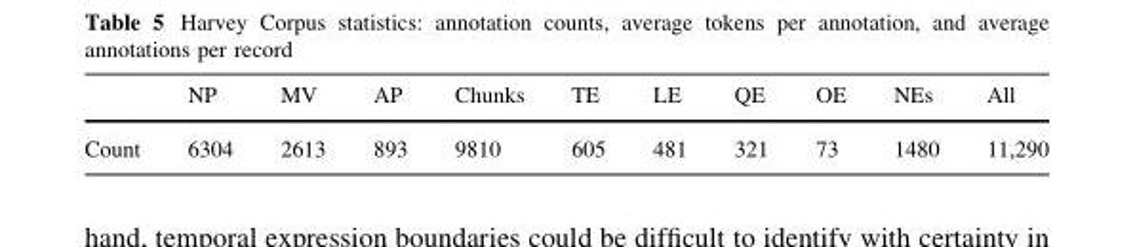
<table><thead><tr><td></td><td>NP</td><td>MV</td><td>AP</td><td>Chunks</td><td>TE</td><td>LE</td><td>QE</td><td>OE</td><td>NEs</td><td>All</td></tr></thead><tbody><tr><td>Count</td><td>6304</td><td>2613</td><td>893</td><td>9810</td><td>605</td><td>481</td><td>321</td><td>73</td><td>1480</td><td>11,290</td></tr></tbody></table>